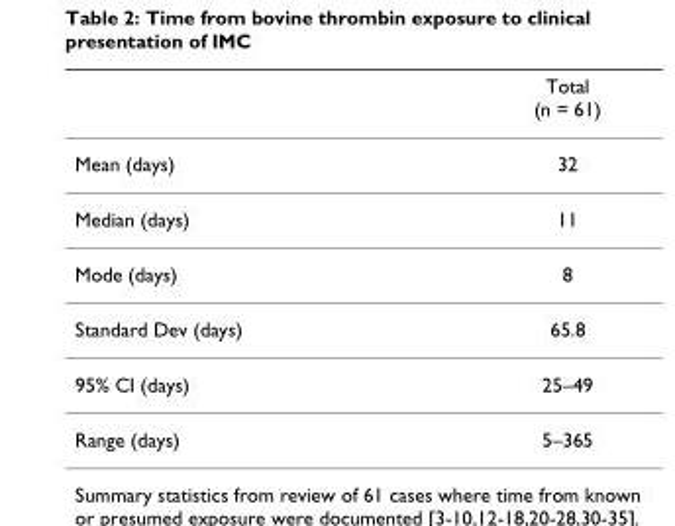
<table><thead><tr><td></td><td>Total (n = 61)</td></tr></thead><tbody><tr><td>Mean (days)</td><td>32</td></tr><tr><td>Median (days)</td><td>11</td></tr><tr><td>Mode (days)</td><td>8</td></tr><tr><td>Standard Dev (days)</td><td>65.8</td></tr><tr><td>95% CI (days)</td><td>25–49</td></tr><tr><td>Range (days)</td><td>5–365</td></tr></tbody></table>